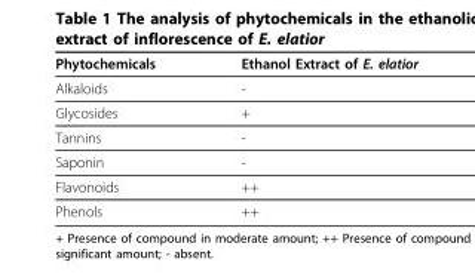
<table><thead><tr><td>Phytochemicals</td><td>Ethanol Extract of E. elatior</td></tr></thead><tbody><tr><td>Alkaloids</td><td>-</td></tr><tr><td>Glycosides</td><td>+</td></tr><tr><td>Tannins</td><td>-</td></tr><tr><td>Saponin</td><td>-</td></tr><tr><td>Flavonoids</td><td>++</td></tr><tr><td>Phenols</td><td>++</td></tr></tbody></table>